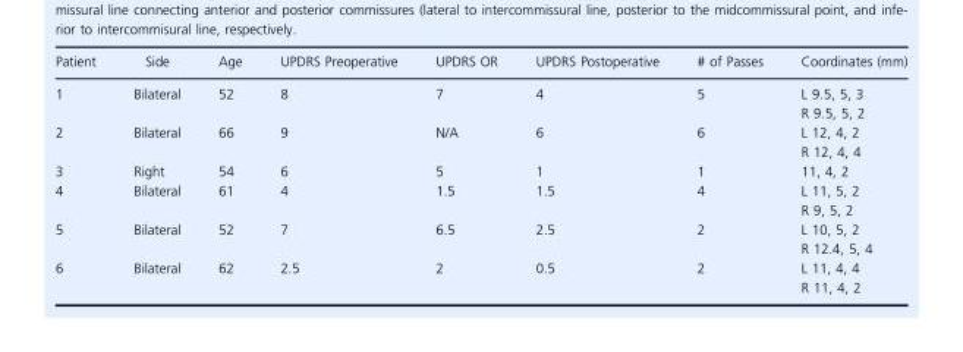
<table><thead><tr><td>Patient</td><td>Side</td><td>Age</td><td>UPDRS Preoperative</td><td>UPDRS OR</td><td>UPDRS Postoperative</td><td># of Passes</td><td>Coordinates (mm)</td></tr></thead><tbody><tr><td rowspan="2">1</td><td rowspan="2">Bilateral</td><td rowspan="2">52</td><td rowspan="2">8</td><td rowspan="2">7</td><td rowspan="2">4</td><td rowspan="2">5</td><td>L 9.5, 5, 3</td></tr><tr><td>R 9.5, 5, 2</td></tr><tr><td rowspan="2">2</td><td rowspan="2">Bilateral</td><td rowspan="2">66</td><td rowspan="2">9</td><td rowspan="2">N/A</td><td rowspan="2">6</td><td rowspan="2">6</td><td>L 12, 4, 2</td></tr><tr><td>R 12, 4, 4</td></tr><tr><td>3</td><td>Right</td><td>54</td><td>6</td><td>5</td><td>1</td><td>1</td><td>11, 4, 2</td></tr><tr><td rowspan="2">4</td><td rowspan="2">Bilateral</td><td rowspan="2">61</td><td rowspan="2">4</td><td rowspan="2">1.5</td><td rowspan="2">1.5</td><td rowspan="2">4</td><td>L 11, 5, 2</td></tr><tr><td>R 9, 5, 2</td></tr><tr><td rowspan="2">5</td><td rowspan="2">Bilateral</td><td rowspan="2">52</td><td rowspan="2">7</td><td rowspan="2">6.5</td><td rowspan="2">2.5</td><td rowspan="2">2</td><td>L 10, 5, 2</td></tr><tr><td>R 12.4, 5, 4</td></tr><tr><td rowspan="2">6</td><td rowspan="2">Bilateral</td><td rowspan="2">62</td><td rowspan="2">2.5</td><td rowspan="2">2</td><td rowspan="2">0.5</td><td rowspan="2">2</td><td>L 11, 4, 4</td></tr><tr><td>R 11, 4, 2</td></tr></tbody></table>